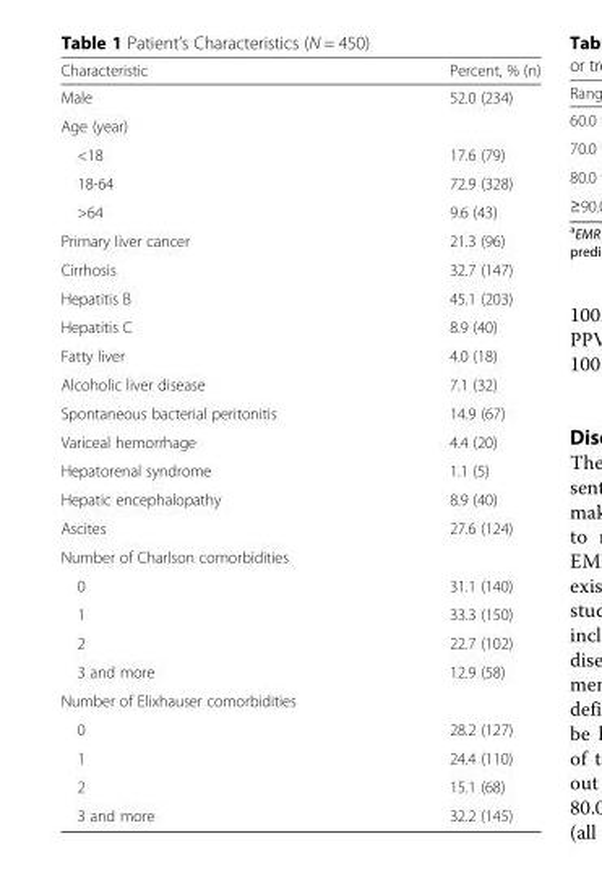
<table><thead><tr><td>Characteristic</td><td>Percent, % (n)</td></tr></thead><tbody><tr><td>Male</td><td>52.0 (234)</td></tr><tr><td colspan="2">Age (year)</td></tr><tr><td>&lt;18</td><td>17.6 (79)</td></tr><tr><td>18-64</td><td>72.9 (328)</td></tr><tr><td>&gt;64</td><td>9.6 (43)</td></tr><tr><td>Primary liver cancer</td><td>21.3 (96)</td></tr><tr><td>Cirrhosis</td><td>32.7 (147)</td></tr><tr><td>Hepatitis B</td><td>45.1 (203)</td></tr><tr><td>Hepatitis C</td><td>8.9 (40)</td></tr><tr><td>Fatty liver</td><td>4.0 (18)</td></tr><tr><td>Alcoholic liver disease</td><td>7.1 (32)</td></tr><tr><td>Spontaneous bacterial peritonitis</td><td>14.9 (67)</td></tr><tr><td>Variceal hemorrhage</td><td>4.4 (20)</td></tr><tr><td>Hepatorenal syndrome</td><td>1.1 (5)</td></tr><tr><td>Hepatic encephalopathy</td><td>8.9 (40)</td></tr><tr><td>Ascites</td><td>27.6 (124)</td></tr><tr><td colspan="2">Number of Charlson comorbidities</td></tr><tr><td>0</td><td>31.1 (140)</td></tr><tr><td>1</td><td>33.3 (150)</td></tr><tr><td>2</td><td>22.7 (102)</td></tr><tr><td>3 and more</td><td>12.9 (58)</td></tr><tr><td colspan="2">Number of Elixhauser comorbidities</td></tr><tr><td>0</td><td>28.2 (127)</td></tr><tr><td>1</td><td>24.4 (110)</td></tr><tr><td>2</td><td>15.1 (68)</td></tr><tr><td>3 and more</td><td>32.2 (145)</td></tr></tbody></table>